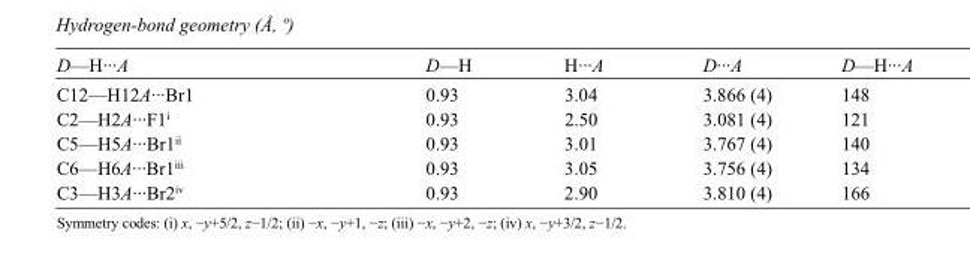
<table><tbody><tr><td>D—H···A</td><td>D—H</td><td>H···A</td><td>D···A</td><td>D—H···A</td></tr><tr><td>C12—H12A···Br1</td><td>0.93</td><td>3.04</td><td>3.866 (4)</td><td>148</td></tr><tr><td>C2—H2A···F1<sup>i</sup></td><td>0.93</td><td>2.50</td><td>3.081 (4)</td><td>121</td></tr><tr><td>C5—H5A···Br1<sup>ii</sup></td><td>0.93</td><td>3.01</td><td>3.767 (4)</td><td>140</td></tr><tr><td>C6—H6A···Br1<sup>iii</sup></td><td>0.93</td><td>3.05</td><td>3.756 (4)</td><td>134</td></tr><tr><td>C3—H3A···Br2<sup>iv</sup></td><td>0.93</td><td>2.90</td><td>3.810 (4)</td><td>166</td></tr></tbody></table>